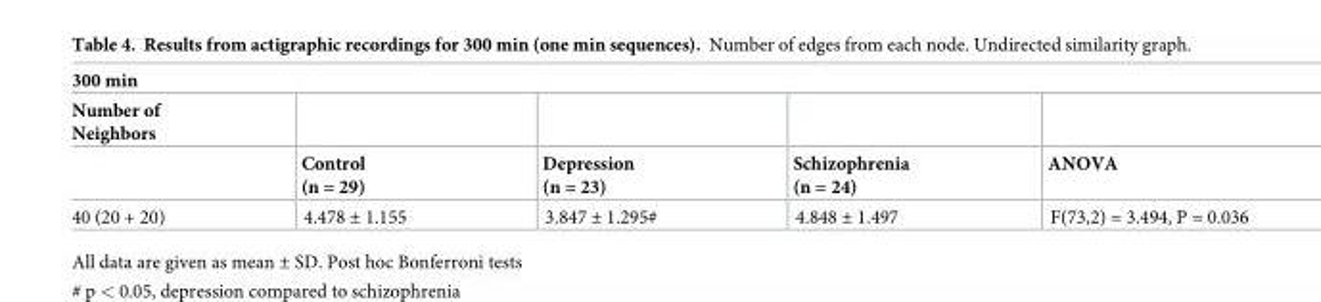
<table><thead><tr><td colspan="5">300 min</td></tr><tr><td rowspan="2">Number of Neighbors</td><td rowspan="2">Control (n = 29)</td><td rowspan="2">Depression (n = 23)</td><td rowspan="2">Schizophrenia (n = 24)</td><td rowspan="2">ANOVA</td></tr><tr></tr></thead><tbody><tr><td>40 (20 + 20)</td><td>4.478 ± 1.155</td><td>3.847 ± 1.295#</td><td>4.848 ± 1.497</td><td>F(73,2) = 3.494, P = 0.036</td></tr></tbody></table>